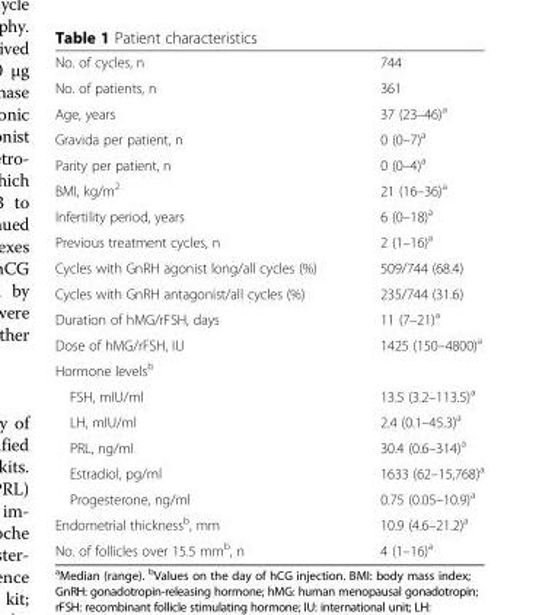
<table><tbody><tr><td>No. of cycles, n</td><td>744</td></tr><tr><td>No. of patients, n</td><td>361</td></tr><tr><td>Age, years</td><td>37 (23–46)<sup>a</sup></td></tr><tr><td>Gravida per patient, n</td><td>0 (0–7)<sup>a</sup></td></tr><tr><td>Parity per patient, n</td><td>0 (0–4)<sup>a</sup></td></tr><tr><td>BMI, kg/m<sup>2</sup></td><td>21 (16–36)<sup>a</sup></td></tr><tr><td>Infertility period, years</td><td>6 (0–18)<sup>a</sup></td></tr><tr><td>Previous treatment cycles, n</td><td>2 (1–16)<sup>a</sup></td></tr><tr><td>Cycles with GnRH agonist long/all cycles (%)</td><td>509/744 (68.4)</td></tr><tr><td>Cycles with GnRH antagonist/all cycles (%)</td><td>235/744 (31.6)</td></tr><tr><td>Duration of hMG/rFSH, days</td><td>11 (7–21)<sup>a</sup></td></tr><tr><td>Dose of hMG/rFSH, IU</td><td>1425 (150–4800)<sup>a</sup></td></tr><tr><td colspan="2">Hormone levels<sup>b</sup></td></tr><tr><td>FSH, mIU/ml</td><td>13.5 (3.2–113.5)<sup>a</sup></td></tr><tr><td>LH, mIU/ml</td><td>2.4 (0.1–45.3)<sup>a</sup></td></tr><tr><td>PRL, ng/ml</td><td>30.4 (0.6–314)<sup>a</sup></td></tr><tr><td>Estradiol, pg/ml</td><td>1633 (62–15,768)<sup>a</sup></td></tr><tr><td>Progesterone, ng/ml</td><td>0.75 (0.05–10.9)<sup>a</sup></td></tr><tr><td>Endometrial thickness<sup>b</sup>, mm</td><td>10.9 (4.6–21.2)<sup>a</sup></td></tr><tr><td>No. of follicles over 15.5 mm<sup>b</sup>, n</td><td>4 (1–16)<sup>a</sup></td></tr></tbody></table>